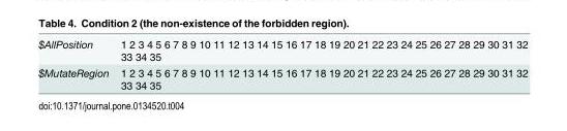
<table><tbody><tr><td>$AllPosition</td><td>1 2 3 4 5 6 7 8 9 10 11 12 13 14 15 16 17 18 19 20 21 22 23 24 25 26 27 28 29 30 31 32 33 34 35</td></tr><tr><td>$MutateRegion</td><td>1 2 3 4 5 6 7 8 9 10 11 12 13 14 15 16 17 18 19 20 21 22 23 24 25 26 27 28 29 30 31 32 33 34 35</td></tr></tbody></table>